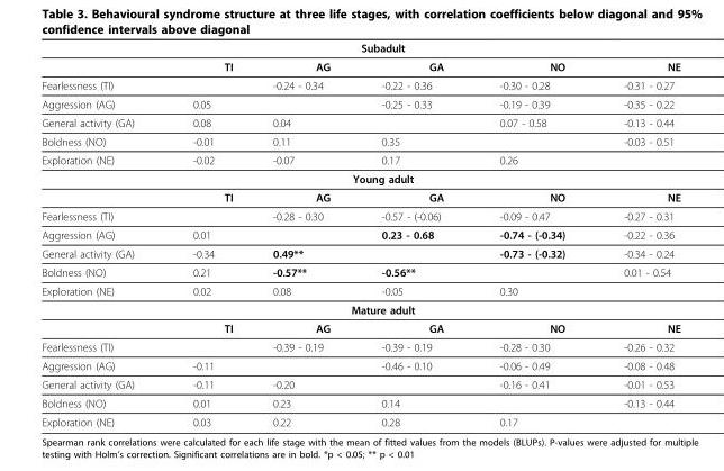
<table><thead><tr><td colspan="6">Subadult</td></tr><tr><td></td><td>TI</td><td>AG</td><td>GA</td><td>NO</td><td>NE</td></tr></thead><tbody><tr><td>Fearlessness (TI)</td><td></td><td>-0.24 - 0.34</td><td>-0.22 - 0.36</td><td>-0.30 - 0.28</td><td>-0.31 - 0.27</td></tr><tr><td>Aggression (AG)</td><td>0.05</td><td></td><td>-0.25 - 0.33</td><td>-0.19 - 0.39</td><td>-0.35 - 0.22</td></tr><tr><td>General activity (GA)</td><td>0.08</td><td>0.04</td><td></td><td>0.07 - 0.58</td><td>-0.13 - 0.44</td></tr><tr><td>Boldness (NO)</td><td>-0.01</td><td>0.11</td><td>0.35</td><td></td><td>-0.03 - 0.51</td></tr><tr><td>Exploration (NE)</td><td>-0.02</td><td>-0.07</td><td>0.17</td><td>0.26</td><td></td></tr><tr><td colspan="6">Young adult</td></tr><tr><td></td><td>TI</td><td>AG</td><td>GA</td><td>NO</td><td>NE</td></tr><tr><td>Fearlessness (TI)</td><td></td><td>-0.28 - 0.30</td><td>-0.57 - (-0.06)</td><td>-0.09 - 0.47</td><td>-0.27 - 0.31</td></tr><tr><td>Aggression (AG)</td><td>0.01</td><td></td><td>0.23 - 0.68</td><td>-0.74 - (-0.34)</td><td>-0.22 - 0.36</td></tr><tr><td>General activity (GA)</td><td>-0.34</td><td>0.49**</td><td></td><td>-0.73 - (-0.32)</td><td>-0.34 - 0.24</td></tr><tr><td>Boldness (NO)</td><td>0.21</td><td>-0.57**</td><td>-0.56**</td><td></td><td>0.01 - 0.54</td></tr><tr><td>Exploration (NE)</td><td>0.02</td><td>0.08</td><td>-0.05</td><td>0.30</td><td></td></tr><tr><td colspan="6">Mature adult</td></tr><tr><td></td><td>TI</td><td>AG</td><td>GA</td><td>NO</td><td>NE</td></tr><tr><td>Fearlessness (TI)</td><td></td><td>-0.39 - 0.19</td><td>-0.39 - 0.19</td><td>-0.28 - 0.30</td><td>-0.26 - 0.32</td></tr><tr><td>Aggression (AG)</td><td>-0.11</td><td></td><td>-0.46 - 0.10</td><td>-0.06 - 0.49</td><td>-0.08 - 0.48</td></tr><tr><td>General activity (GA)</td><td>-0.11</td><td>-0.20</td><td></td><td>-0.16 - 0.41</td><td>-0.01 - 0.53</td></tr><tr><td>Boldness (NO)</td><td>0.01</td><td>0.23</td><td>0.14</td><td></td><td>-0.13 - 0.44</td></tr><tr><td>Exploration (NE)</td><td>0.03</td><td>0.22</td><td>0.28</td><td>0.17</td><td></td></tr></tbody></table>